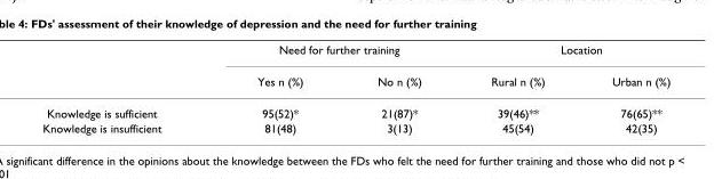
<table><thead><tr><td rowspan="2"></td><td colspan="2">Need for further training</td><td colspan="2">Location</td></tr><tr><td>Yes n (%)</td><td>No n (%)</td><td>Rural n (%)</td><td>Urban n (%)</td></tr></thead><tbody><tr><td>Knowledge is sufficient</td><td>95(52)*</td><td>21(87)*</td><td>39(46)**</td><td>76(65)**</td></tr><tr><td>Knowledge is insufficient</td><td>81(48)</td><td>3(13)</td><td>45(54)</td><td>42(35)</td></tr></tbody></table>